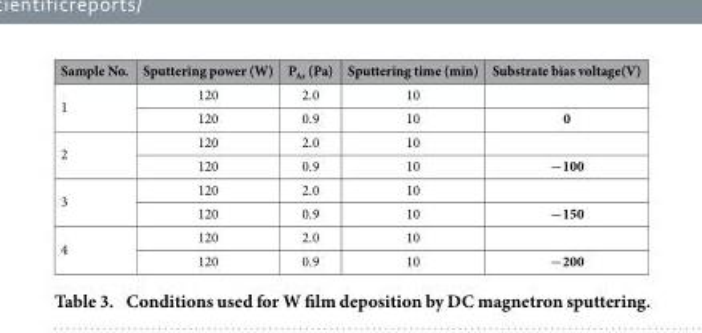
<table><thead><tr><td>Sample No.</td><td>Sputtering power (W)</td><td>P<sub>Ar</sub> (Pa)</td><td>Sputtering time (min)</td><td>Substrate bias voltage(V)</td></tr></thead><tbody><tr><td rowspan="2">1</td><td>120</td><td>2.0</td><td>10</td><td></td></tr><tr><td>120</td><td>0.9</td><td>10</td><td>0</td></tr><tr><td rowspan="2">2</td><td>120</td><td>2.0</td><td>10</td><td></td></tr><tr><td>120</td><td>0.9</td><td>10</td><td>−100</td></tr><tr><td rowspan="2">3</td><td>120</td><td>2.0</td><td>10</td><td></td></tr><tr><td>120</td><td>0.9</td><td>10</td><td>−150</td></tr><tr><td rowspan="2">4</td><td>120</td><td>2.0</td><td>10</td><td></td></tr><tr><td>120</td><td>0.9</td><td>10</td><td>−200</td></tr></tbody></table>